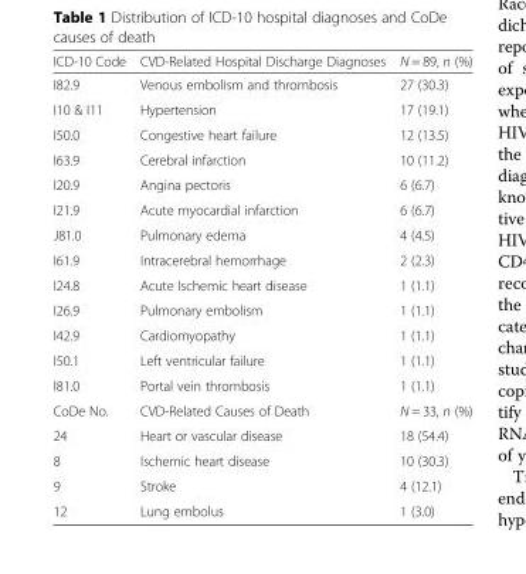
<table><thead><tr><td>ICD-10 Code</td><td>CVD-Related Hospital Discharge Diagnoses</td><td>N = 89, n (%)</td></tr></thead><tbody><tr><td>I82.9</td><td>Venous embolism and thrombosis</td><td>27 (30.3)</td></tr><tr><td>I10 &amp; I11</td><td>Hypertension</td><td>17 (19.1)</td></tr><tr><td>I50.0</td><td>Congestive heart failure</td><td>12 (13.5)</td></tr><tr><td>I63.9</td><td>Cerebral infarction</td><td>10 (11.2)</td></tr><tr><td>I20.9</td><td>Angina pectoris</td><td>6 (6.7)</td></tr><tr><td>I21.9</td><td>Acute myocardial infarction</td><td>6 (6.7)</td></tr><tr><td>J81.0</td><td>Pulmonary edema</td><td>4 (4.5)</td></tr><tr><td>I61.9</td><td>Intracerebral hemorrhage</td><td>2 (2.3)</td></tr><tr><td>I24.8</td><td>Acute Ischemic heart disease</td><td>1 (1.1)</td></tr><tr><td>I26.9</td><td>Pulmonary embolism</td><td>1 (1.1)</td></tr><tr><td>I42.9</td><td>Cardiomyopathy</td><td>1 (1.1)</td></tr><tr><td>I50.1</td><td>Left ventricular failure</td><td>1 (1.1)</td></tr><tr><td>I81.0</td><td>Portal vein thrombosis</td><td>1 (1.1)</td></tr><tr><td>CoDe No.</td><td>CVD-Related Causes of Death</td><td>N = 33, n (%)</td></tr><tr><td>24</td><td>Heart or vascular disease</td><td>18 (54.4)</td></tr><tr><td>8</td><td>Ischemic heart disease</td><td>10 (30.3)</td></tr><tr><td>9</td><td>Stroke</td><td>4 (12.1)</td></tr><tr><td>12</td><td>Lung embolus</td><td>1 (3.0)</td></tr></tbody></table>